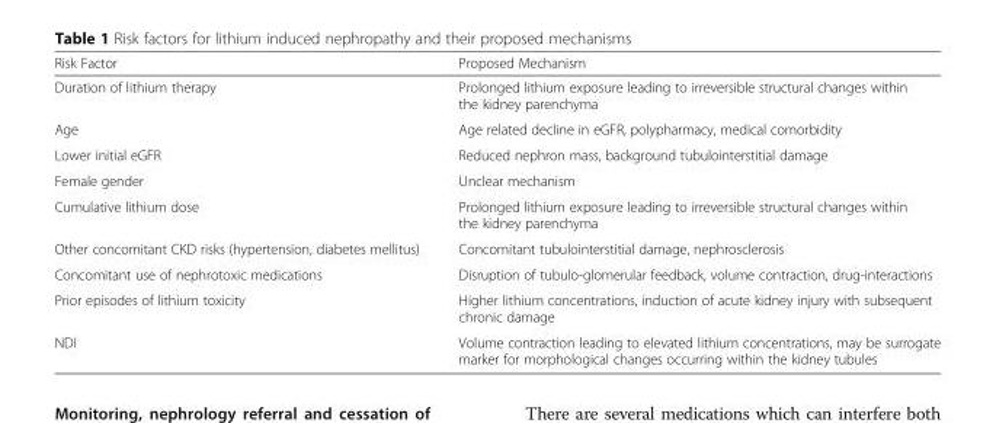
<table><thead><tr><td>Risk Factor</td><td>Proposed Mechanism</td></tr></thead><tbody><tr><td>Duration of lithium therapy</td><td>Prolonged lithium exposure leading to irreversible structural changes within the kidney parenchyma</td></tr><tr><td>Age</td><td>Age related decline in eGFR, polypharmacy, medical comorbidity</td></tr><tr><td>Lower initial eGFR</td><td>Reduced nephron mass, background tubulointerstitial damage</td></tr><tr><td>Female gender</td><td>Unclear mechanism</td></tr><tr><td>Cumulative lithium dose</td><td>Prolonged lithium exposure leading to irreversible structural changes within the kidney parenchyma</td></tr><tr><td>Other concomitant CKD risks (hypertension, diabetes mellitus)</td><td>Concomitant tubulointerstitial damage, nephrosclerosis</td></tr><tr><td>Concomitant use of nephrotoxic medications</td><td>Disruption of tubulo-glomerular feedback, volume contraction, drug-interactions</td></tr><tr><td>Prior episodes of lithium toxicity</td><td>Higher lithium concentrations, induction of acute kidney injury with subsequent chronic damage</td></tr><tr><td>NDI</td><td>Volume contraction leading to elevated lithium concentrations, may be surrogate marker for morphological changes occurring within the kidney tubules</td></tr></tbody></table>